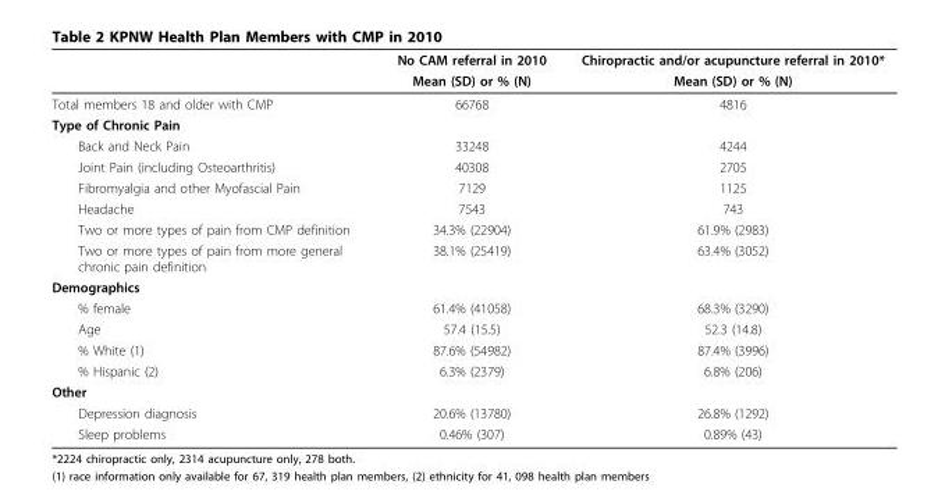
<table><thead><tr><td rowspan="2"></td><td rowspan="2">No CAM referral in 2010 Mean (SD) or % (N)</td><td rowspan="2">Chiropractic and/or acupuncture referral in 2010* Mean (SD) or % (N)</td></tr><tr></tr></thead><tbody><tr><td>Total members 18 and older with CMP</td><td>66768</td><td>4816</td></tr><tr><td colspan="3">Type of Chronic Pain</td></tr><tr><td>Back and Neck Pain</td><td>33248</td><td>4244</td></tr><tr><td>Joint Pain (including Osteoarthritis)</td><td>40308</td><td>2705</td></tr><tr><td>Fibromyalgia and other Myofascial Pain</td><td>7129</td><td>1125</td></tr><tr><td>Headache</td><td>7543</td><td>743</td></tr><tr><td>Two or more types of pain from CMP definition</td><td>34.3% (22904)</td><td>61.9% (2983)</td></tr><tr><td>Two or more types of pain from more general chronic pain definition</td><td>38.1% (25419)</td><td>63.4% (3052)</td></tr><tr><td colspan="3">Demographics</td></tr><tr><td>% female</td><td>61.4% (41058)</td><td>68.3% (3290)</td></tr><tr><td>Age</td><td>57.4 (15.5)</td><td>52.3 (14.8)</td></tr><tr><td>% White (1)</td><td>87.6% (54982)</td><td>87.4% (3996)</td></tr><tr><td>% Hispanic (2)</td><td>6.3% (2379)</td><td>6.8% (206)</td></tr><tr><td colspan="3">Other</td></tr><tr><td>Depression diagnosis</td><td>20.6% (13780)</td><td>26.8% (1292)</td></tr><tr><td>Sleep problems</td><td>0.46% (307)</td><td>0.89% (43)</td></tr></tbody></table>